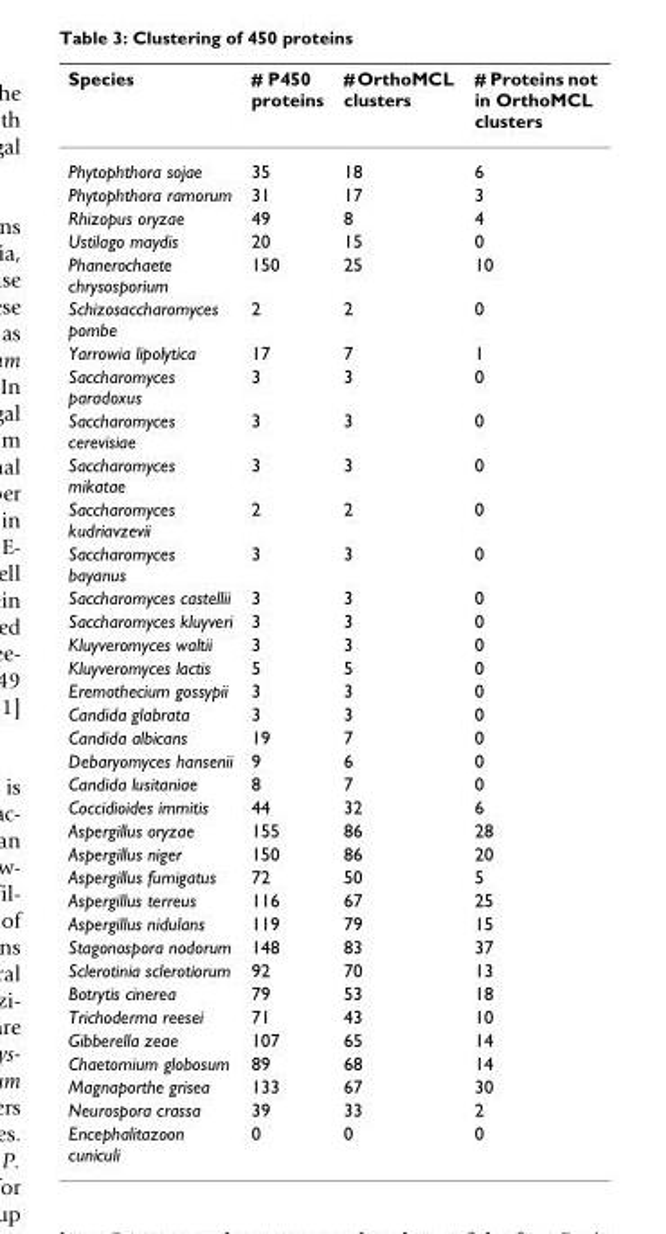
<table><thead><tr><td>Species</td><td># P450 proteins</td><td># OrthoMCL clusters</td><td># Proteins not in OrthoMCL clusters</td></tr></thead><tbody><tr><td>Phytophthora sojae</td><td>35</td><td>18</td><td>6</td></tr><tr><td>Phytophthora ramorum</td><td>31</td><td>17</td><td>3</td></tr><tr><td>Rhizopus oryzae</td><td>49</td><td>8</td><td>4</td></tr><tr><td>Ustilago maydis</td><td>20</td><td>15</td><td>0</td></tr><tr><td>Phanerochaete chrysosporium</td><td>150</td><td>25</td><td>10</td></tr><tr><td>Schizosaccharomyces pombe</td><td>2</td><td>2</td><td>0</td></tr><tr><td>Yarrowia lipolytica</td><td>17</td><td>7</td><td>1</td></tr><tr><td>Saccharomyces paradoxus</td><td>3</td><td>3</td><td>0</td></tr><tr><td>Saccharomyces cerevisiae</td><td>3</td><td>3</td><td>0</td></tr><tr><td>Saccharomyces mikatae</td><td>3</td><td>3</td><td>0</td></tr><tr><td>Saccharomyces kudriavzevii</td><td>2</td><td>2</td><td>0</td></tr><tr><td>Saccharomyces bayanus</td><td>3</td><td>3</td><td>0</td></tr><tr><td>Saccharomyces castellii</td><td>3</td><td>3</td><td>0</td></tr><tr><td>Saccharomyces kluyveri</td><td>3</td><td>3</td><td>0</td></tr><tr><td>Kluyveromyces waltii</td><td>3</td><td>3</td><td>0</td></tr><tr><td>Kluyveromyces lactis</td><td>5</td><td>5</td><td>0</td></tr><tr><td>Eremothecium gossypii</td><td>3</td><td>3</td><td>0</td></tr><tr><td>Candida glabrata</td><td>3</td><td>3</td><td>0</td></tr><tr><td>Candida albicans</td><td>19</td><td>7</td><td>0</td></tr><tr><td>Debaryomyces hansenii</td><td>9</td><td>6</td><td>0</td></tr><tr><td>Candida lusitaniae</td><td>8</td><td>7</td><td>0</td></tr><tr><td>Coccidioides immitis</td><td>44</td><td>32</td><td>6</td></tr><tr><td>Aspergillus oryzae</td><td>155</td><td>86</td><td>28</td></tr><tr><td>Aspergillus niger</td><td>150</td><td>86</td><td>20</td></tr><tr><td>Aspergillus fumigatus</td><td>72</td><td>50</td><td>5</td></tr><tr><td>Aspergillus terreus</td><td>116</td><td>67</td><td>25</td></tr><tr><td>Aspergillus nidulans</td><td>119</td><td>79</td><td>15</td></tr><tr><td>Stagonospora nodorum</td><td>148</td><td>83</td><td>37</td></tr><tr><td>Sclerotinia sclerotiorum</td><td>92</td><td>70</td><td>13</td></tr><tr><td>Botrytis cinerea</td><td>79</td><td>53</td><td>18</td></tr><tr><td>Trichoderma reesei</td><td>71</td><td>43</td><td>10</td></tr><tr><td>Gibberella zeae</td><td>107</td><td>65</td><td>14</td></tr><tr><td>Chaetomium globosum</td><td>89</td><td>68</td><td>14</td></tr><tr><td>Magnaporthe grisea</td><td>133</td><td>67</td><td>30</td></tr><tr><td>Neurospora crassa</td><td>39</td><td>33</td><td>2</td></tr><tr><td>Encephalitazoon cuniculi</td><td>0</td><td>0</td><td>0</td></tr></tbody></table>